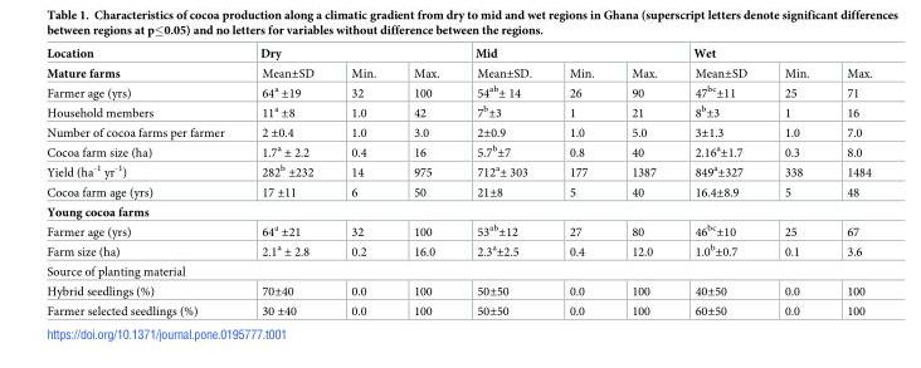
<table><thead><tr><td rowspan="2">Location Mature farms</td><td colspan="3">Dry</td><td colspan="3">Mid</td><td colspan="3">Wet</td></tr><tr><td>Mean±SD</td><td>Min.</td><td>Max.</td><td>Mean±SD.</td><td>Min.</td><td>Max.</td><td>Mean±SD</td><td>Min.</td><td>Max.</td></tr></thead><tbody><tr><td>Farmer age (yrs)</td><td>64<sup>a</sup> ±19</td><td>32</td><td>100</td><td>54<sup>ab</sup>± 14</td><td>26</td><td>90</td><td>47<sup>bc</sup>±11</td><td>25</td><td>71</td></tr><tr><td>Household members</td><td>11<sup>a</sup> ±8</td><td>1.0</td><td>42</td><td>7<sup>b</sup>±3</td><td>1</td><td>21</td><td>8<sup>b</sup>±3</td><td>1</td><td>16</td></tr><tr><td>Number of cocoa farms per farmer</td><td>2 ±0.4</td><td>1.0</td><td>3.0</td><td>2±0.9</td><td>1.0</td><td>5.0</td><td>3±1.3</td><td>1.0</td><td>7.0</td></tr><tr><td>Cocoa farm size (ha)</td><td>1.7<sup>a</sup> ± 2.2</td><td>0.4</td><td>16</td><td>5.7<sup>b</sup>±7</td><td>0.8</td><td>40</td><td>2.16<sup>a</sup>±1.7</td><td>0.3</td><td>8.0</td></tr><tr><td>Yield (ha<sup>-1</sup> yr<sup>-1</sup>)</td><td>282<sup>b</sup> ±232</td><td>14</td><td>975</td><td>712<sup>a</sup>± 303</td><td>177</td><td>1387</td><td>849<sup>a</sup>±327</td><td>338</td><td>1484</td></tr><tr><td>Cocoa farm age (yrs)</td><td>17 ±11</td><td>6</td><td>50</td><td>21±8</td><td>5</td><td>40</td><td>16.4±8.9</td><td>5</td><td>48</td></tr><tr><td colspan="10">Young cocoa farms</td></tr><tr><td>Farmer age (yrs)</td><td>64<sup>a</sup> ±21</td><td>32</td><td>100</td><td>53<sup>ab</sup>±12</td><td>27</td><td>80</td><td>46<sup>bc</sup>±10</td><td>25</td><td>67</td></tr><tr><td>Farm size (ha)</td><td>2.1<sup>a</sup> ± 2.8</td><td>0.2</td><td>16.0</td><td>2.3<sup>a</sup>±2.5</td><td>0.4</td><td>12.0</td><td>1.0<sup>b</sup>±0.7</td><td>0.1</td><td>3.6</td></tr><tr><td colspan="10">Source of planting material</td></tr><tr><td>Hybrid seedlings (%)</td><td>70±40</td><td>0.0</td><td>100</td><td>50±50</td><td>0.0</td><td>100</td><td>40±50</td><td>0.0</td><td>100</td></tr><tr><td>Farmer selected seedlings (%)</td><td>30 ±40</td><td>0.0</td><td>100</td><td>50±50</td><td>0.0</td><td>100</td><td>60±50</td><td>0.0</td><td>100</td></tr></tbody></table>